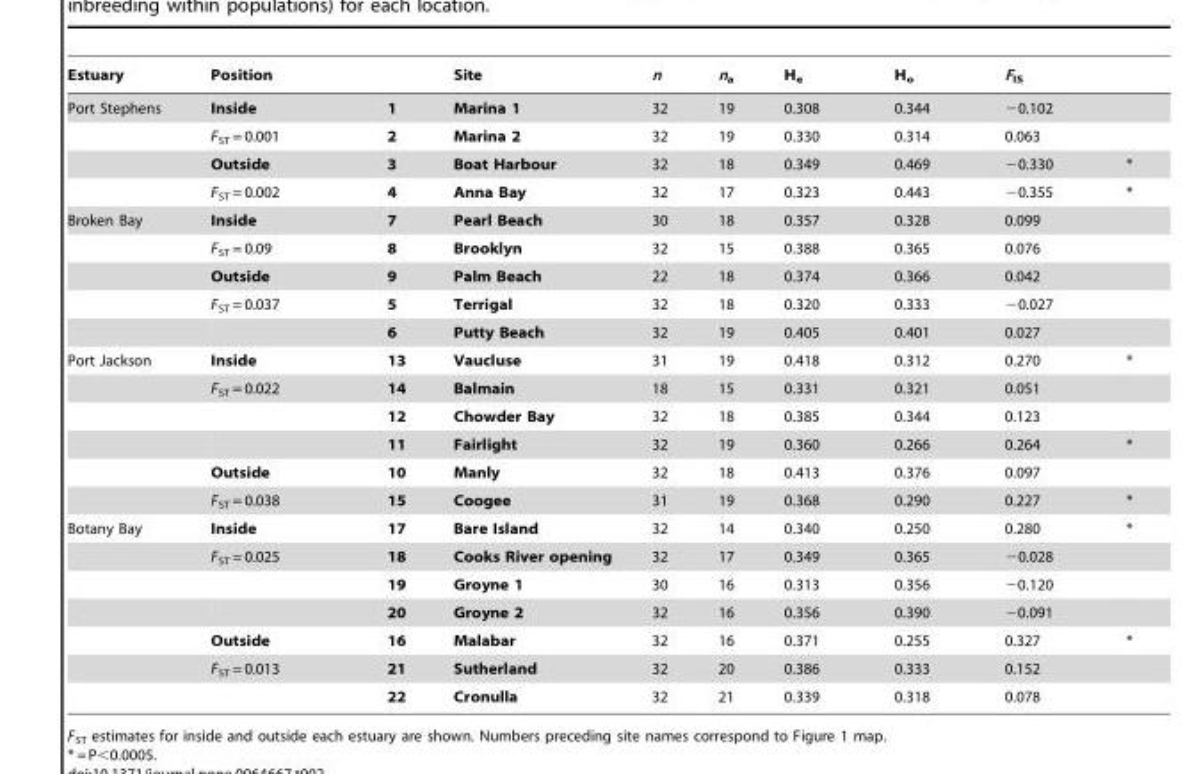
<table><thead><tr><td>Estuary</td><td>Position</td><td></td><td>Site</td><td>n</td><td>n<sub>a</sub></td><td>H<sub>e</sub></td><td>H<sub>o</sub></td><td>F<sub>IS</sub></td><td></td></tr></thead><tbody><tr><td rowspan="4">Port Stephens</td><td>Inside</td><td>1</td><td>Marina 1</td><td>32</td><td>19</td><td>0.308</td><td>0.344</td><td>−0.102</td><td></td></tr><tr><td>F<sub>ST</sub> = 0.001</td><td>2</td><td>Marina 2</td><td>32</td><td>19</td><td>0.330</td><td>0.314</td><td>0.063</td><td></td></tr><tr><td>Outside</td><td>3</td><td>Boat Harbour</td><td>32</td><td>18</td><td>0.349</td><td>0.469</td><td>−0.330</td><td>*</td></tr><tr><td>F<sub>ST</sub> = 0.002</td><td>4</td><td>Anna Bay</td><td>32</td><td>17</td><td>0.323</td><td>0.443</td><td>−0.355</td><td>*</td></tr><tr><td rowspan="5">Broken Bay</td><td>Inside</td><td>7</td><td>Pearl Beach</td><td>30</td><td>18</td><td>0.357</td><td>0.328</td><td>0.099</td><td></td></tr><tr><td>F<sub>ST</sub> = 0.09</td><td>8</td><td>Brooklyn</td><td>32</td><td>15</td><td>0.388</td><td>0.365</td><td>0.076</td><td></td></tr><tr><td>Outside</td><td>9</td><td>Palm Beach</td><td>22</td><td>18</td><td>0.374</td><td>0.366</td><td>0.042</td><td></td></tr><tr><td>F<sub>ST</sub> = 0.037</td><td>5</td><td>Terrigal</td><td>32</td><td>18</td><td>0.320</td><td>0.333</td><td>−0.027</td><td></td></tr><tr><td></td><td>6</td><td>Putty Beach</td><td>32</td><td>19</td><td>0.405</td><td>0.401</td><td>0.027</td><td></td></tr><tr><td rowspan="6">Port Jackson</td><td>Inside</td><td>13</td><td>Vaucluse</td><td>31</td><td>19</td><td>0.418</td><td>0.312</td><td>0.270</td><td>*</td></tr><tr><td>F<sub>ST</sub> = 0.022</td><td>14</td><td>Balmain</td><td>18</td><td>15</td><td>0.331</td><td>0.321</td><td>0.051</td><td></td></tr><tr><td></td><td>12</td><td>Chowder Bay</td><td>32</td><td>18</td><td>0.385</td><td>0.344</td><td>0.123</td><td></td></tr><tr><td></td><td>11</td><td>Fairlight</td><td>32</td><td>19</td><td>0.360</td><td>0.266</td><td>0.264</td><td>*</td></tr><tr><td>Outside</td><td>10</td><td>Manly</td><td>32</td><td>18</td><td>0.413</td><td>0.376</td><td>0.097</td><td></td></tr><tr><td>F<sub>ST</sub> = 0.038</td><td>15</td><td>Coogee</td><td>31</td><td>19</td><td>0.368</td><td>0.290</td><td>0.227</td><td>*</td></tr><tr><td rowspan="7">Botany Bay</td><td>Inside</td><td>17</td><td>Bare Island</td><td>32</td><td>14</td><td>0.340</td><td>0.250</td><td>0.280</td><td>*</td></tr><tr><td>F<sub>ST</sub> = 0.025</td><td>18</td><td>Cooks River opening</td><td>32</td><td>17</td><td>0.349</td><td>0.365</td><td>−0.028</td><td></td></tr><tr><td></td><td>19</td><td>Groyne 1</td><td>30</td><td>16</td><td>0.313</td><td>0.356</td><td>−0.120</td><td></td></tr><tr><td></td><td>20</td><td>Groyne 2</td><td>32</td><td>16</td><td>0.356</td><td>0.390</td><td>−0.091</td><td></td></tr><tr><td>Outside</td><td>16</td><td>Malabar</td><td>32</td><td>16</td><td>0.371</td><td>0.255</td><td>0.327</td><td>*</td></tr><tr><td>F<sub>ST</sub> = 0.013</td><td>21</td><td>Sutherland</td><td>32</td><td>20</td><td>0.386</td><td>0.333</td><td>0.152</td><td></td></tr><tr><td></td><td>22</td><td>Cronulla</td><td>32</td><td>21</td><td>0.339</td><td>0.318</td><td>0.078</td><td></td></tr></tbody></table>